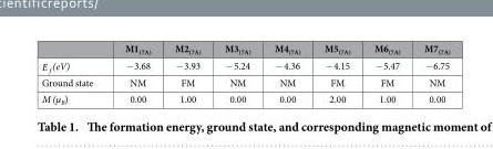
<table><thead><tr><td></td><td>M1<sub>(7A)</sub></td><td>M2<sub>(7A)</sub></td><td>M3<sub>(7A)</sub></td><td>M4<sub>(7A)</sub></td><td>M5<sub>(7A)</sub></td><td>M6<sub>(7A)</sub></td><td>M7<sub>(7A)</sub></td></tr></thead><tbody><tr><td>E f(eV)</td><td>− 3.68</td><td>− 3.93</td><td>− 5.24</td><td>− 4.36</td><td>− 4.15</td><td>− 5.47</td><td>− 6.75</td></tr><tr><td>Ground state</td><td>NM</td><td>FM</td><td>NM</td><td>NM</td><td>FM</td><td>FM</td><td>NM</td></tr><tr><td>M (μ<sub>B</sub>)</td><td>0.00</td><td>1.00</td><td>0.00</td><td>0.00</td><td>2.00</td><td>1.00</td><td>0.00</td></tr></tbody></table>